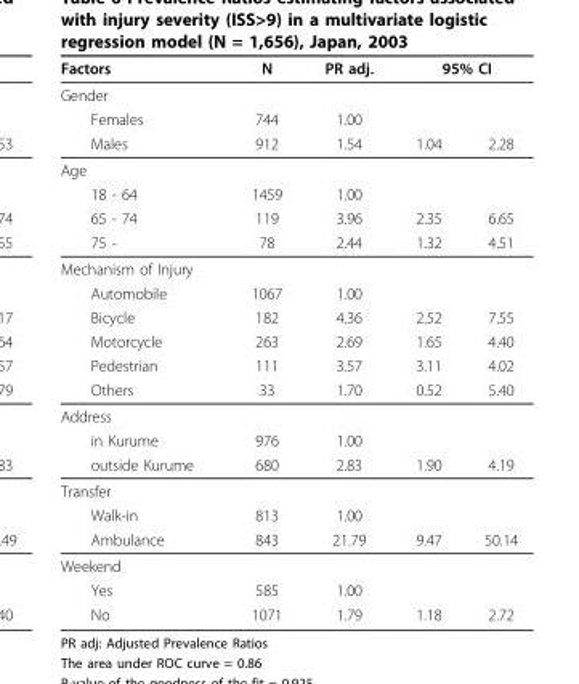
<table><thead><tr><td rowspan="2">Factors Gender</td><td rowspan="2">N</td><td rowspan="2">PR adj.</td><td colspan="2">95% CI</td></tr><tr><td></td><td></td></tr></thead><tbody><tr><td>Females</td><td>744</td><td>1.00</td><td></td><td></td></tr><tr><td>Males</td><td>912</td><td>1.54</td><td>1.04</td><td>2.28</td></tr><tr><td colspan="5">Age</td></tr><tr><td>18 - 64</td><td>1459</td><td>1.00</td><td></td><td></td></tr><tr><td>65 - 74</td><td>119</td><td>3.96</td><td>2.35</td><td>6.65</td></tr><tr><td>75 -</td><td>78</td><td>2.44</td><td>1.32</td><td>4.51</td></tr><tr><td colspan="5">Mechanism of Injury</td></tr><tr><td>Automobile</td><td>1067</td><td>1.00</td><td></td><td></td></tr><tr><td>Bicycle</td><td>182</td><td>4.36</td><td>2.52</td><td>7.55</td></tr><tr><td>Motorcycle</td><td>263</td><td>2.69</td><td>1.65</td><td>4.40</td></tr><tr><td>Pedestrian</td><td>111</td><td>3.57</td><td>3.11</td><td>4.02</td></tr><tr><td>Others</td><td>33</td><td>1.70</td><td>0.52</td><td>5.40</td></tr><tr><td colspan="5">Address</td></tr><tr><td>in Kurume</td><td>976</td><td>1.00</td><td></td><td></td></tr><tr><td>outside Kurume</td><td>680</td><td>2.83</td><td>1.90</td><td>4.19</td></tr><tr><td colspan="5">Transfer</td></tr><tr><td>Walk-in</td><td>813</td><td>1.00</td><td></td><td></td></tr><tr><td>Ambulance</td><td>843</td><td>21.79</td><td>9.47</td><td>50.14</td></tr><tr><td colspan="5">Weekend</td></tr><tr><td>Yes</td><td>585</td><td>1.00</td><td></td><td></td></tr><tr><td>No</td><td>1071</td><td>1.79</td><td>1.18</td><td>2.72</td></tr></tbody></table>